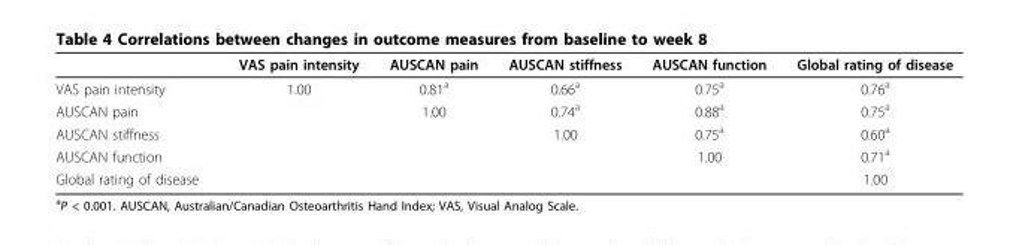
<table><thead><tr><td></td><td>VAS pain intensity</td><td>AUSCAN pain</td><td>AUSCAN stiffness</td><td>AUSCAN function</td><td>Global rating of disease</td></tr></thead><tbody><tr><td>VAS pain intensity</td><td>1.00</td><td>0.81<sup>a</sup></td><td>0.66<sup>a</sup></td><td>0.75<sup>a</sup></td><td>0.76<sup>a</sup></td></tr><tr><td>AUSCAN pain</td><td></td><td>1.00</td><td>0.74<sup>a</sup></td><td>0.88<sup>a</sup></td><td>0.75<sup>a</sup></td></tr><tr><td>AUSCAN stiffness</td><td></td><td></td><td>1.00</td><td>0.75<sup>a</sup></td><td>0.60<sup>a</sup></td></tr><tr><td>AUSCAN function</td><td></td><td></td><td></td><td>1.00</td><td>0.71<sup>a</sup></td></tr><tr><td>Global rating of disease</td><td></td><td></td><td></td><td></td><td>1.00</td></tr></tbody></table>